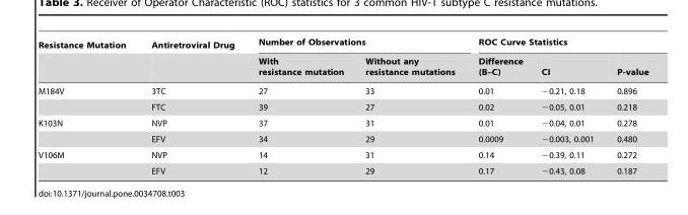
<table><thead><tr><td rowspan="2">Resistance Mutation</td><td rowspan="2">Antiretroviral Drug</td><td colspan="2">Number of Observations</td><td colspan="3">ROC Curve Statistics</td></tr><tr><td>With resistance mutation</td><td>Without any resistance mutations</td><td>Difference (B–C)</td><td>CI</td><td>P-value</td></tr></thead><tbody><tr><td rowspan="2">M184V</td><td>3TC</td><td>27</td><td>33</td><td>0.01</td><td>−0.21, 0.18</td><td>0.896</td></tr><tr><td>FTC</td><td>39</td><td>27</td><td>0.02</td><td>−0.05, 0.01</td><td>0.218</td></tr><tr><td rowspan="2">K103N</td><td>NVP</td><td>37</td><td>31</td><td>0.01</td><td>−0.04, 0.01</td><td>0.278</td></tr><tr><td>EFV</td><td>34</td><td>29</td><td>0.0009</td><td>−0.003, 0.001</td><td>0.480</td></tr><tr><td rowspan="2">V106M</td><td>NVP</td><td>14</td><td>31</td><td>0.14</td><td>−0.39, 0.11</td><td>0.272</td></tr><tr><td>EFV</td><td>12</td><td>29</td><td>0.17</td><td>−0.43, 0.08</td><td>0.187</td></tr></tbody></table>